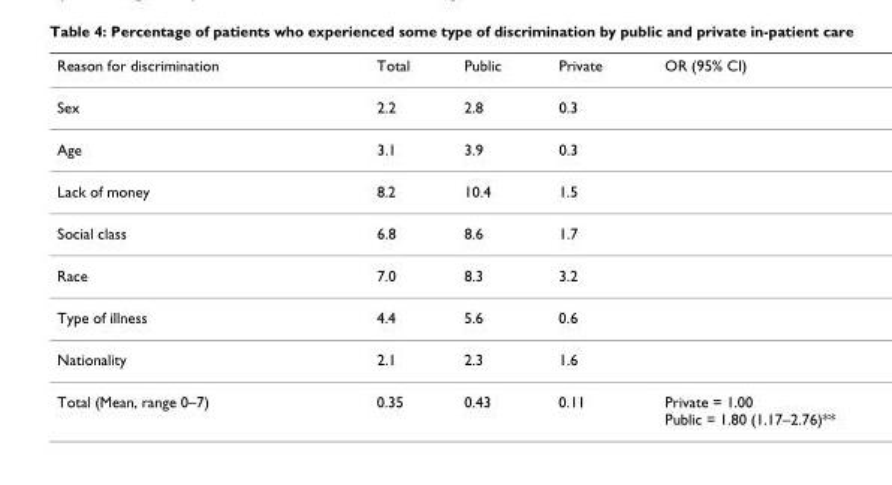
<table><thead><tr><td>Reason for discrimination</td><td>Total</td><td>Public</td><td>Private</td><td>OR (95% CI)</td></tr></thead><tbody><tr><td>Sex</td><td>2.2</td><td>2.8</td><td>0.3</td><td></td></tr><tr><td>Age</td><td>3.1</td><td>3.9</td><td>0.3</td><td></td></tr><tr><td>Lack of money</td><td>8.2</td><td>10.4</td><td>1.5</td><td></td></tr><tr><td>Social class</td><td>6.8</td><td>8.6</td><td>1.7</td><td></td></tr><tr><td>Race</td><td>7.0</td><td>8.3</td><td>3.2</td><td></td></tr><tr><td>Type of illness</td><td>4.4</td><td>5.6</td><td>0.6</td><td></td></tr><tr><td>Nationality</td><td>2.1</td><td>2.3</td><td>1.6</td><td></td></tr><tr><td>Total (Mean, range 0–7)</td><td>0.35</td><td>0.43</td><td>0.11</td><td>Private = 1.00 Public = 1.80 (1.17–2.76)**</td></tr></tbody></table>